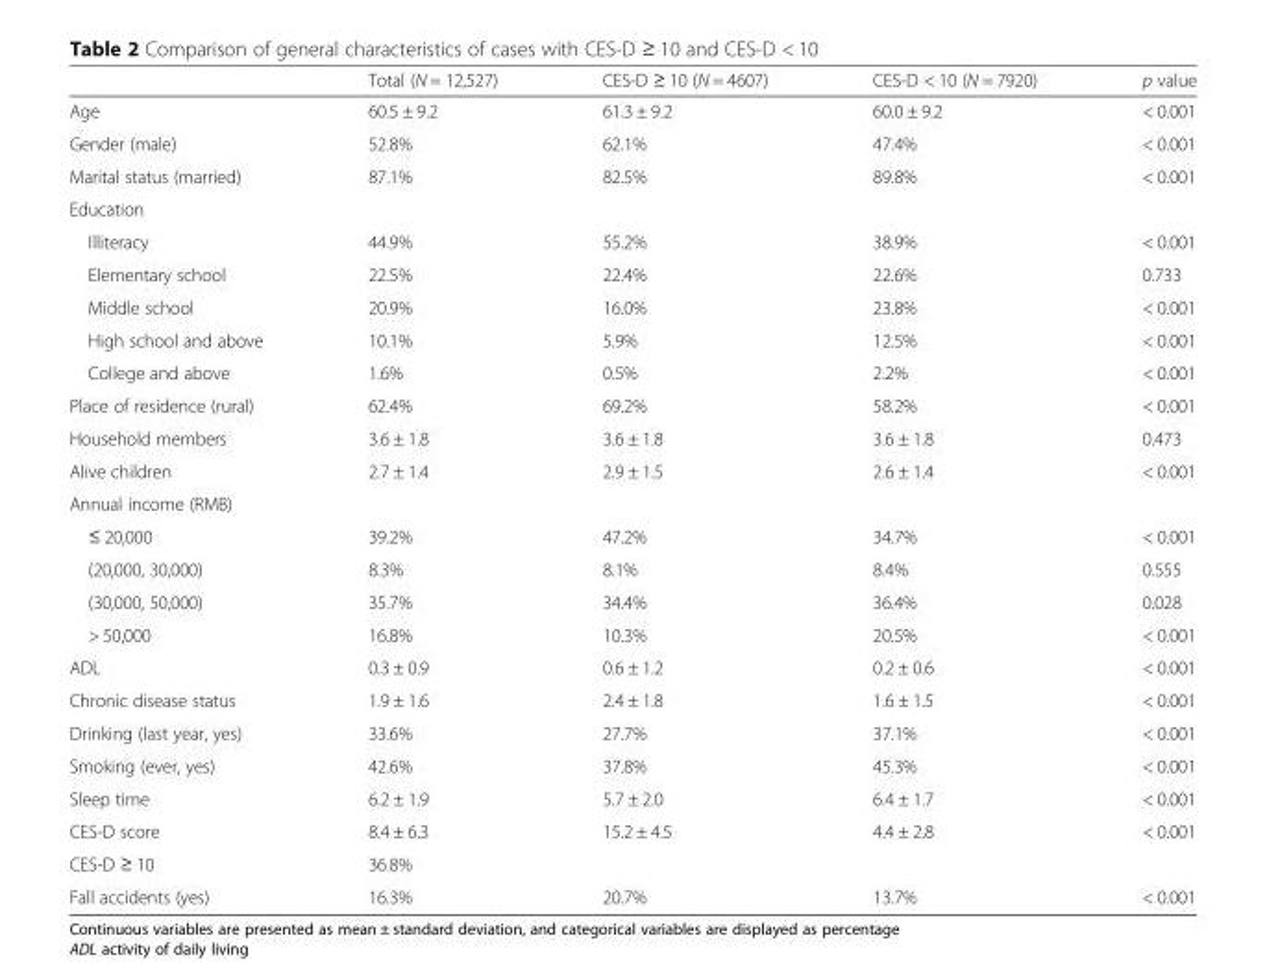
<table><thead><tr><td></td><td>Total (N = 12,527)</td><td>CES-D ≥ 10 (N = 4607)</td><td>CES-D &lt; 10 (N = 7920)</td><td>p value</td></tr></thead><tbody><tr><td>Age</td><td>60.5 ± 9.2</td><td>61.3 ± 9.2</td><td>60.0 ± 9.2</td><td>&lt; 0.001</td></tr><tr><td>Gender (male)</td><td>52.8%</td><td>62.1%</td><td>47.4%</td><td>&lt; 0.001</td></tr><tr><td>Marital status (married)</td><td>87.1%</td><td>82.5%</td><td>89.8%</td><td>&lt; 0.001</td></tr><tr><td colspan="5">Education</td></tr><tr><td>Illiteracy</td><td>44.9%</td><td>55.2%</td><td>38.9%</td><td>&lt; 0.001</td></tr><tr><td>Elementary school</td><td>22.5%</td><td>22.4%</td><td>22.6%</td><td>0.733</td></tr><tr><td>Middle school</td><td>20.9%</td><td>16.0%</td><td>23.8%</td><td>&lt; 0.001</td></tr><tr><td>High school and above</td><td>10.1%</td><td>5.9%</td><td>12.5%</td><td>&lt; 0.001</td></tr><tr><td>College and above</td><td>1.6%</td><td>0.5%</td><td>2.2%</td><td>&lt; 0.001</td></tr><tr><td>Place of residence (rural)</td><td>62.4%</td><td>69.2%</td><td>58.2%</td><td>&lt; 0.001</td></tr><tr><td>Household members</td><td>3.6 ± 1.8</td><td>3.6 ± 1.8</td><td>3.6 ± 1.8</td><td>0.473</td></tr><tr><td>Alive children</td><td>2.7 ± 1.4</td><td>2.9 ± 1.5</td><td>2.6 ± 1.4</td><td>&lt; 0.001</td></tr><tr><td colspan="5">Annual income (RMB)</td></tr><tr><td>≤ 20,000</td><td>39.2%</td><td>47.2%</td><td>34.7%</td><td>&lt; 0.001</td></tr><tr><td>(20,000, 30,000)</td><td>8.3%</td><td>8.1%</td><td>8.4%</td><td>0.555</td></tr><tr><td>(30,000, 50,000)</td><td>35.7%</td><td>34.4%</td><td>36.4%</td><td>0.028</td></tr><tr><td>&gt; 50,000</td><td>16.8%</td><td>10.3%</td><td>20.5%</td><td>&lt; 0.001</td></tr><tr><td>ADL</td><td>0.3 ± 0.9</td><td>0.6 ± 1.2</td><td>0.2 ± 0.6</td><td>&lt; 0.001</td></tr><tr><td>Chronic disease status</td><td>1.9 ± 1.6</td><td>2.4 ± 1.8</td><td>1.6 ± 1.5</td><td>&lt; 0.001</td></tr><tr><td>Drinking (last year, yes)</td><td>33.6%</td><td>27.7%</td><td>37.1%</td><td>&lt; 0.001</td></tr><tr><td>Smoking (ever, yes)</td><td>42.6%</td><td>37.8%</td><td>45.3%</td><td>&lt; 0.001</td></tr><tr><td>Sleep time</td><td>6.2 ± 1.9</td><td>5.7 ± 2.0</td><td>6.4 ± 1.7</td><td>&lt; 0.001</td></tr><tr><td>CES-D score</td><td>8.4 ± 6.3</td><td>15.2 ± 4.5</td><td>4.4 ± 2.8</td><td>&lt; 0.001</td></tr><tr><td>CES-D ≥ 10</td><td>36.8%</td><td></td><td></td><td></td></tr><tr><td>Fall accidents (yes)</td><td>16.3%</td><td>20.7%</td><td>13.7%</td><td>&lt; 0.001</td></tr></tbody></table>